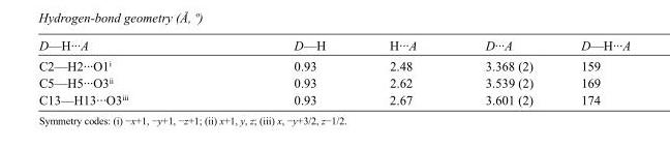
<table><tbody><tr><td>D—H···A</td><td>D—H</td><td>H···A</td><td>D···A</td><td>D—H···A</td></tr><tr><td>C2—H2···O1<sup>i</sup></td><td>0.93</td><td>2.48</td><td>3.368 (2)</td><td>159</td></tr><tr><td>C5—H5···O3<sup>ii</sup></td><td>0.93</td><td>2.62</td><td>3.539 (2)</td><td>169</td></tr><tr><td>C13—H13···O3<sup>iii</sup></td><td>0.93</td><td>2.67</td><td>3.601 (2)</td><td>174</td></tr></tbody></table>